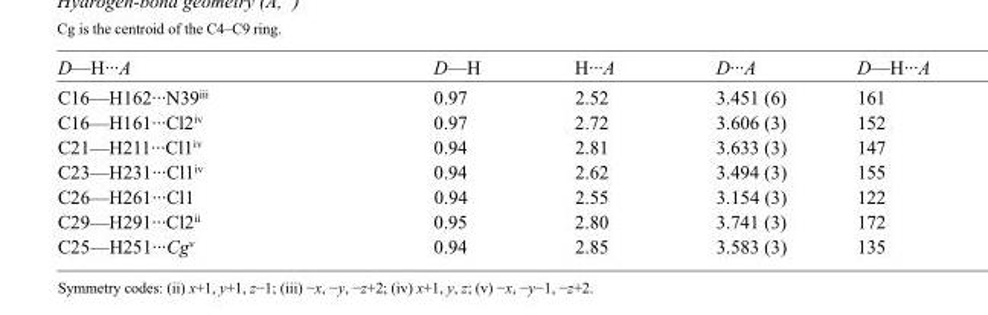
<table><tbody><tr><td>D—H···A</td><td>D—H</td><td>H···A</td><td>D···A</td><td>D—H···A</td></tr><tr><td>C16—H162···N39<sup>iii</sup></td><td>0.97</td><td>2.52</td><td>3.451 (6)</td><td>161</td></tr><tr><td>C16—H161···Cl2<sup>iv</sup></td><td>0.97</td><td>2.72</td><td>3.606 (3)</td><td>152</td></tr><tr><td>C21—H211···Cl1<sup>iv</sup></td><td>0.94</td><td>2.81</td><td>3.633 (3)</td><td>147</td></tr><tr><td>C23—H231···Cl1<sup>iv</sup></td><td>0.94</td><td>2.62</td><td>3.494 (3)</td><td>155</td></tr><tr><td>C26—H261···Cl1</td><td>0.94</td><td>2.55</td><td>3.154 (3)</td><td>122</td></tr><tr><td>C29—H291···Cl2<sup>ii</sup></td><td>0.95</td><td>2.80</td><td>3.741 (3)</td><td>172</td></tr><tr><td>C25—H251···Cg<sup>v</sup></td><td>0.94</td><td>2.85</td><td>3.583 (3)</td><td>135</td></tr></tbody></table>